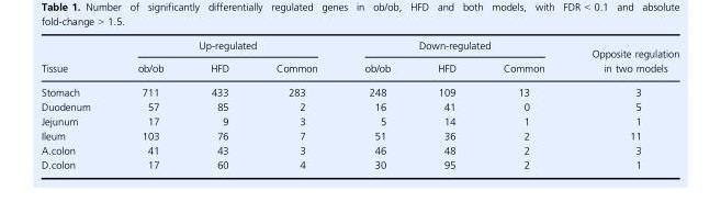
<table><thead><tr><td rowspan="2">Tissue</td><td colspan="3">Up-regulated</td><td colspan="3">Down-regulated</td><td rowspan="2">Opposite regulation in two models</td></tr><tr><td>ob/ob</td><td>HFD</td><td>Common</td><td>ob/ob</td><td>HFD</td><td>Common</td></tr></thead><tbody><tr><td>Stomach</td><td>711</td><td>433</td><td>283</td><td>248</td><td>109</td><td>13</td><td>3</td></tr><tr><td>Duodenum</td><td>57</td><td>85</td><td>2</td><td>16</td><td>41</td><td>0</td><td>5</td></tr><tr><td>Jejunum</td><td>17</td><td>9</td><td>3</td><td>5</td><td>14</td><td>1</td><td>1</td></tr><tr><td>Ileum</td><td>103</td><td>76</td><td>7</td><td>51</td><td>36</td><td>2</td><td>11</td></tr><tr><td>A.colon</td><td>41</td><td>43</td><td>3</td><td>46</td><td>48</td><td>2</td><td>3</td></tr><tr><td>D.colon</td><td>17</td><td>60</td><td>4</td><td>30</td><td>95</td><td>2</td><td>1</td></tr></tbody></table>